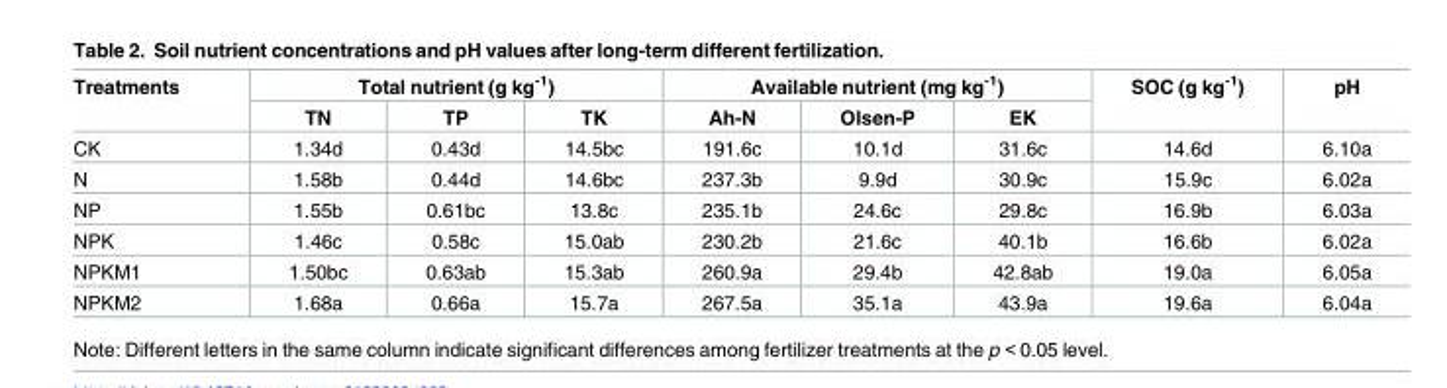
<table><thead><tr><td rowspan="2">Treatments</td><td colspan="3">Total nutrient (g kg<sup>-1</sup>)</td><td colspan="3">Available nutrient (mg kg<sup>-1</sup>)</td><td rowspan="2">SOC (g kg<sup>-1</sup>)</td><td rowspan="2">pH</td></tr><tr><td>TN</td><td>TP</td><td>TK</td><td>Ah-N</td><td>Olsen-P</td><td>EK</td></tr></thead><tbody><tr><td>CK</td><td>1.34d</td><td>0.43d</td><td>14.5bc</td><td>191.6c</td><td>10.1d</td><td>31.6c</td><td>14.6d</td><td>6.10a</td></tr><tr><td>N</td><td>1.58b</td><td>0.44d</td><td>14.6bc</td><td>237.3b</td><td>9.9d</td><td>30.9c</td><td>15.9c</td><td>6.02a</td></tr><tr><td>NP</td><td>1.55b</td><td>0.61bc</td><td>13.8c</td><td>235.1b</td><td>24.6c</td><td>29.8c</td><td>16.9b</td><td>6.03a</td></tr><tr><td>NPK</td><td>1.46c</td><td>0.58c</td><td>15.0ab</td><td>230.2b</td><td>21.6c</td><td>40.1b</td><td>16.6b</td><td>6.02a</td></tr><tr><td>NPKM1</td><td>1.50bc</td><td>0.63ab</td><td>15.3ab</td><td>260.9a</td><td>29.4b</td><td>42.8ab</td><td>19.0a</td><td>6.05a</td></tr><tr><td>NPKM2</td><td>1.68a</td><td>0.66a</td><td>15.7a</td><td>267.5a</td><td>35.1a</td><td>43.9a</td><td>19.6a</td><td>6.04a</td></tr></tbody></table>